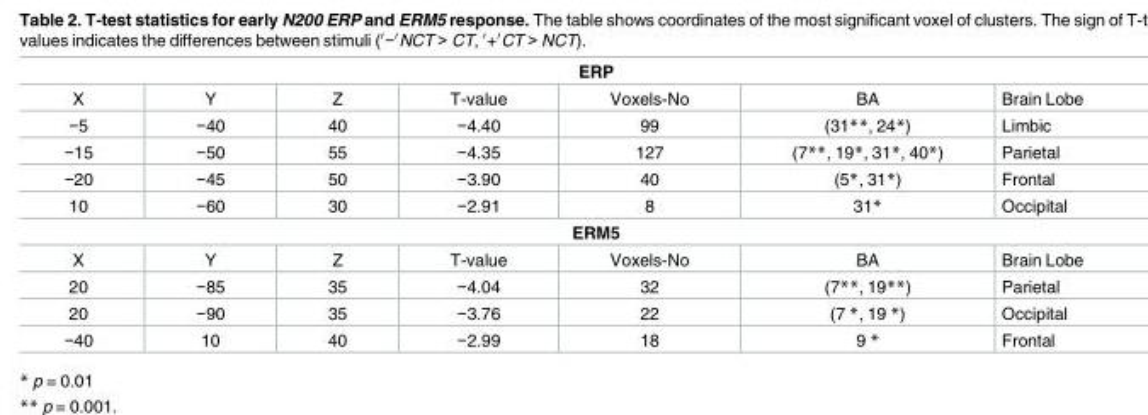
<table><tbody><tr><td colspan="7">ERP</td></tr><tr><td>X</td><td>Y</td><td>Z</td><td>T-value</td><td>Voxels-No</td><td>BA</td><td>Brain Lobe</td></tr><tr><td>−5</td><td>−40</td><td>40</td><td>−4.40</td><td>99</td><td>(31**, 24*)</td><td>Limbic</td></tr><tr><td>−15</td><td>−50</td><td>55</td><td>−4.35</td><td>127</td><td>(7**, 19*, 31*, 40*)</td><td>Parietal</td></tr><tr><td>−20</td><td>−45</td><td>50</td><td>−3.90</td><td>40</td><td>(5*, 31*)</td><td>Frontal</td></tr><tr><td>10</td><td>−60</td><td>30</td><td>−2.91</td><td>8</td><td>31*</td><td>Occipital</td></tr><tr><td colspan="7">ERM5</td></tr><tr><td>X</td><td>Y</td><td>Z</td><td>T-value</td><td>Voxels-No</td><td>BA</td><td>Brain Lobe</td></tr><tr><td>20</td><td>−85</td><td>35</td><td>−4.04</td><td>32</td><td>(7**, 19**)</td><td>Parietal</td></tr><tr><td>20</td><td>−90</td><td>35</td><td>−3.76</td><td>22</td><td>(7 *, 19 *)</td><td>Occipital</td></tr><tr><td>−40</td><td>10</td><td>40</td><td>−2.99</td><td>18</td><td>9 *</td><td>Frontal</td></tr></tbody></table>